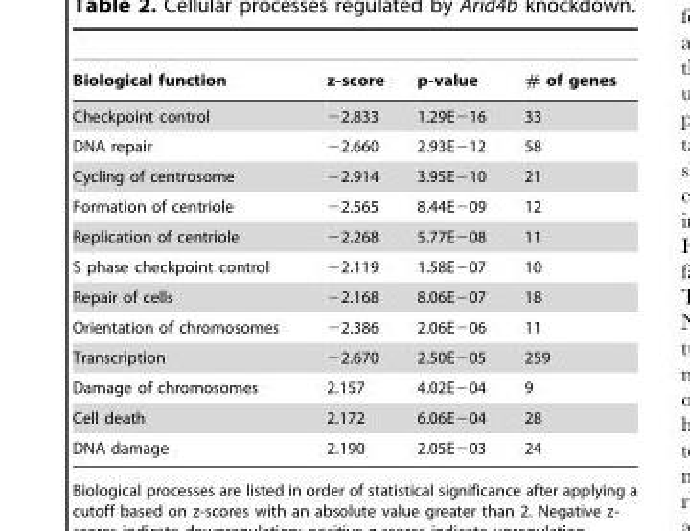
<table><thead><tr><td>Biological function</td><td>z-score</td><td>p-value</td><td># of genes</td></tr></thead><tbody><tr><td>Checkpoint control</td><td>−2.833</td><td>1.29E−16</td><td>33</td></tr><tr><td>DNA repair</td><td>−2.660</td><td>2.93E−12</td><td>58</td></tr><tr><td>Cycling of centrosome</td><td>−2.914</td><td>3.95E−10</td><td>21</td></tr><tr><td>Formation of centriole</td><td>−2.565</td><td>8.44E−09</td><td>12</td></tr><tr><td>Replication of centriole</td><td>−2.268</td><td>5.77E−08</td><td>11</td></tr><tr><td>S phase checkpoint control</td><td>−2.119</td><td>1.58E−07</td><td>10</td></tr><tr><td>Repair of cells</td><td>−2.168</td><td>8.06E−07</td><td>18</td></tr><tr><td>Orientation of chromosomes</td><td>−2.386</td><td>2.06E−06</td><td>11</td></tr><tr><td>Transcription</td><td>−2.670</td><td>2.50E−05</td><td>259</td></tr><tr><td>Damage of chromosomes</td><td>2.157</td><td>4.02E−04</td><td>9</td></tr><tr><td>Cell death</td><td>2.172</td><td>6.06E−04</td><td>28</td></tr><tr><td>DNA damage</td><td>2.190</td><td>2.05E−03</td><td>24</td></tr></tbody></table>